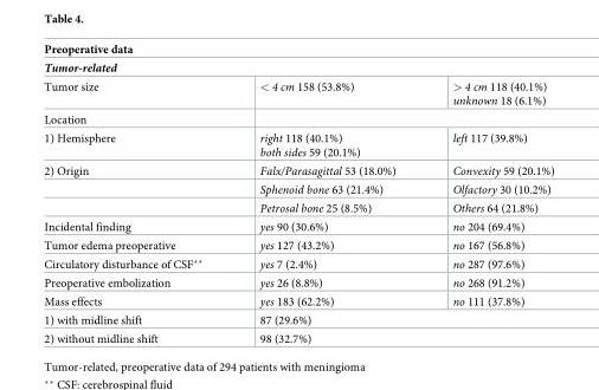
<table><thead><tr><td rowspan="2" colspan="3">Preoperative data Tumor-related</td></tr><tr></tr><tr><td>Tumor size</td><td>&lt; 4 cm 158 (53.8%)</td><td>&gt; 4 cm 118 (40.1%) unknown 18 (6.1%)</td></tr></thead><tbody><tr><td colspan="3">Location</td></tr><tr><td>1) Hemisphere</td><td>right 118 (40.1%) both sides 59 (20.1%)</td><td>left 117 (39.8%)</td></tr><tr><td rowspan="3">2) Origin</td><td>Falx/Parasagittal 53 (18.0%)</td><td>Convexity 59 (20.1%)</td></tr><tr><td>Sphenoid bone 63 (21.4%)</td><td>Olfactory 30 (10.2%)</td></tr><tr><td>Petrosal bone 25 (8.5%)</td><td>Others 64 (21.8%)</td></tr><tr><td>Incidental finding</td><td>yes 90 (30.6%)</td><td>no 204 (69.4%)</td></tr><tr><td>Tumor edema preoperative</td><td>yes 127 (43.2%)</td><td>no 167 (56.8%)</td></tr><tr><td>Circulatory disturbance of CSF**</td><td>yes 7 (2.4%)</td><td>no 287 (97.6%)</td></tr><tr><td>Preoperative embolization</td><td>yes 26 (8.8%)</td><td>no 268 (91.2%)</td></tr><tr><td>Mass effects</td><td>yes 183 (62.2%)</td><td>no 111 (37.8%)</td></tr><tr><td>1) with midline shift</td><td colspan="2">87 (29.6%)</td></tr><tr><td>2) without midline shift</td><td colspan="2">98 (32.7%)</td></tr></tbody></table>